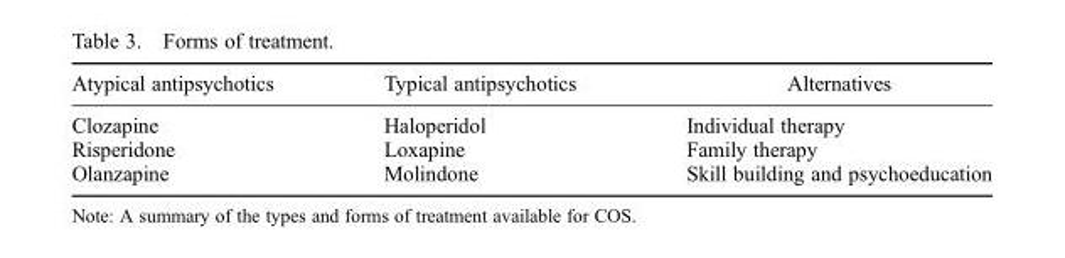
<table><thead><tr><td>Atypical antipsychotics</td><td>Typical antipsychotics</td><td>Alternatives</td></tr></thead><tbody><tr><td>Clozapine</td><td>Haloperidol</td><td>Individual therapy</td></tr><tr><td>Risperidone</td><td>Loxapine</td><td>Family therapy</td></tr><tr><td>Olanzapine</td><td>Molindone</td><td>Skill building and psychoeducation</td></tr></tbody></table>